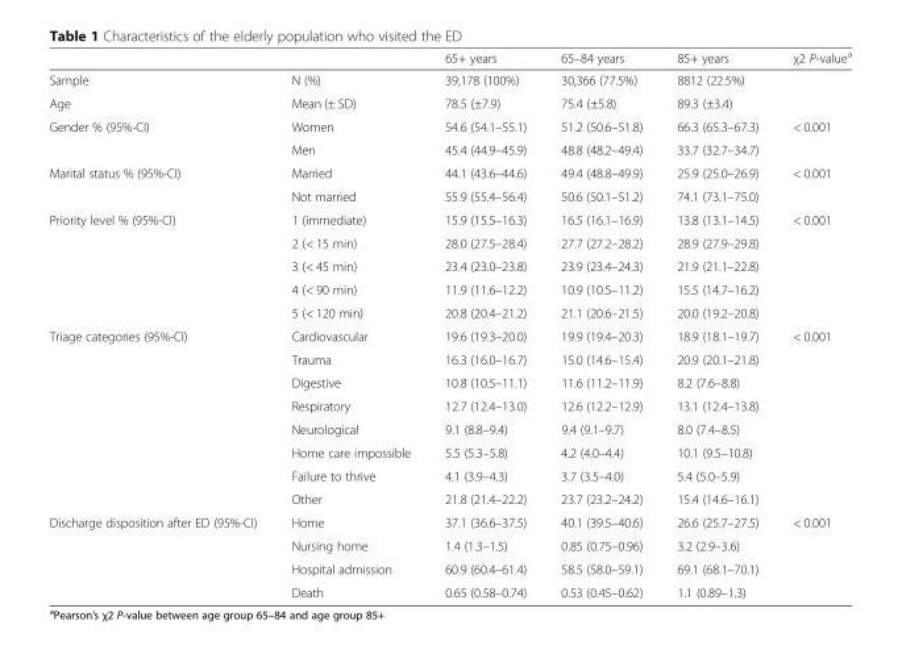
<table><thead><tr><td></td><td></td><td>65+ years</td><td>65–84 years</td><td>85+ years</td><td>χ2 P-value<sup>a</sup></td></tr></thead><tbody><tr><td>Sample</td><td>N (%)</td><td>39,178 (100%)</td><td>30,366 (77.5%)</td><td>8812 (22.5%)</td><td></td></tr><tr><td>Age</td><td>Mean (± SD)</td><td>78.5 (±7.9)</td><td>75.4 (±5.8)</td><td>89.3 (±3.4)</td><td></td></tr><tr><td rowspan="2">Gender % (95%-CI)</td><td>Women</td><td>54.6 (54.1–55.1)</td><td>51.2 (50.6–51.8)</td><td>66.3 (65.3–67.3)</td><td>&lt; 0.001</td></tr><tr><td>Men</td><td>45.4 (44.9–45.9)</td><td>48.8 (48.2–49.4)</td><td>33.7 (32.7–34.7)</td><td></td></tr><tr><td rowspan="2">Marital status % (95%-CI)</td><td>Married</td><td>44.1 (43.6–44.6)</td><td>49.4 (48.8–49.9)</td><td>25.9 (25.0–26.9)</td><td>&lt; 0.001</td></tr><tr><td>Not married</td><td>55.9 (55.4–56.4)</td><td>50.6 (50.1–51.2)</td><td>74.1 (73.1–75.0)</td><td></td></tr><tr><td rowspan="5">Priority level % (95%-CI)</td><td>1 (immediate)</td><td>15.9 (15.5–16.3)</td><td>16.5 (16.1–16.9)</td><td>13.8 (13.1–14.5)</td><td>&lt; 0.001</td></tr><tr><td>2 (&lt; 15 min)</td><td>28.0 (27.5–28.4)</td><td>27.7 (27.2–28.2)</td><td>28.9 (27.9–29.8)</td><td></td></tr><tr><td>3 (&lt; 45 min)</td><td>23.4 (23.0–23.8)</td><td>23.9 (23.4–24.3)</td><td>21.9 (21.1–22.8)</td><td></td></tr><tr><td>4 (&lt; 90 min)</td><td>11.9 (11.6–12.2)</td><td>10.9 (10.5–11.2)</td><td>15.5 (14.7–16.2)</td><td></td></tr><tr><td>5 (&lt; 120 min)</td><td>20.8 (20.4–21.2)</td><td>21.1 (20.6–21.5)</td><td>20.0 (19.2–20.8)</td><td></td></tr><tr><td rowspan="8">Triage categories (95%-CI)</td><td>Cardiovascular</td><td>19.6 (19.3–20.0)</td><td>19.9 (19.4–20.3)</td><td>18.9 (18.1–19.7)</td><td>&lt; 0.001</td></tr><tr><td>Trauma</td><td>16.3 (16.0–16.7)</td><td>15.0 (14.6–15.4)</td><td>20.9 (20.1–21.8)</td><td></td></tr><tr><td>Digestive</td><td>10.8 (10.5–11.1)</td><td>11.6 (11.2–11.9)</td><td>8.2 (7.6–8.8)</td><td></td></tr><tr><td>Respiratory</td><td>12.7 (12.4–13.0)</td><td>12.6 (12.2–12.9)</td><td>13.1 (12.4–13.8)</td><td></td></tr><tr><td>Neurological</td><td>9.1 (8.8–9.4)</td><td>9.4 (9.1–9.7)</td><td>8.0 (7.4–8.5)</td><td></td></tr><tr><td>Home care impossible</td><td>5.5 (5.3–5.8)</td><td>4.2 (4.0–4.4)</td><td>10.1 (9.5–10.8)</td><td></td></tr><tr><td>Failure to thrive</td><td>4.1 (3.9–4.3)</td><td>3.7 (3.5–4.0)</td><td>5.4 (5.0–5.9)</td><td></td></tr><tr><td>Other</td><td>21.8 (21.4–22.2)</td><td>23.7 (23.2–24.2)</td><td>15.4 (14.6–16.1)</td><td></td></tr><tr><td rowspan="4">Discharge disposition after ED (95%-CI)</td><td>Home</td><td>37.1 (36.6–37.5)</td><td>40.1 (39.5–40.6)</td><td>26.6 (25.7–27.5)</td><td>&lt; 0.001</td></tr><tr><td>Nursing home</td><td>1.4 (1.3–1.5)</td><td>0.85 (0.75–0.96)</td><td>3.2 (2.9–3.6)</td><td></td></tr><tr><td>Hospital admission</td><td>60.9 (60.4–61.4)</td><td>58.5 (58.0–59.1)</td><td>69.1 (68.1–70.1)</td><td></td></tr><tr><td>Death</td><td>0.65 (0.58–0.74)</td><td>0.53 (0.45–0.62)</td><td>1.1 (0.89–1.3)</td><td></td></tr></tbody></table>